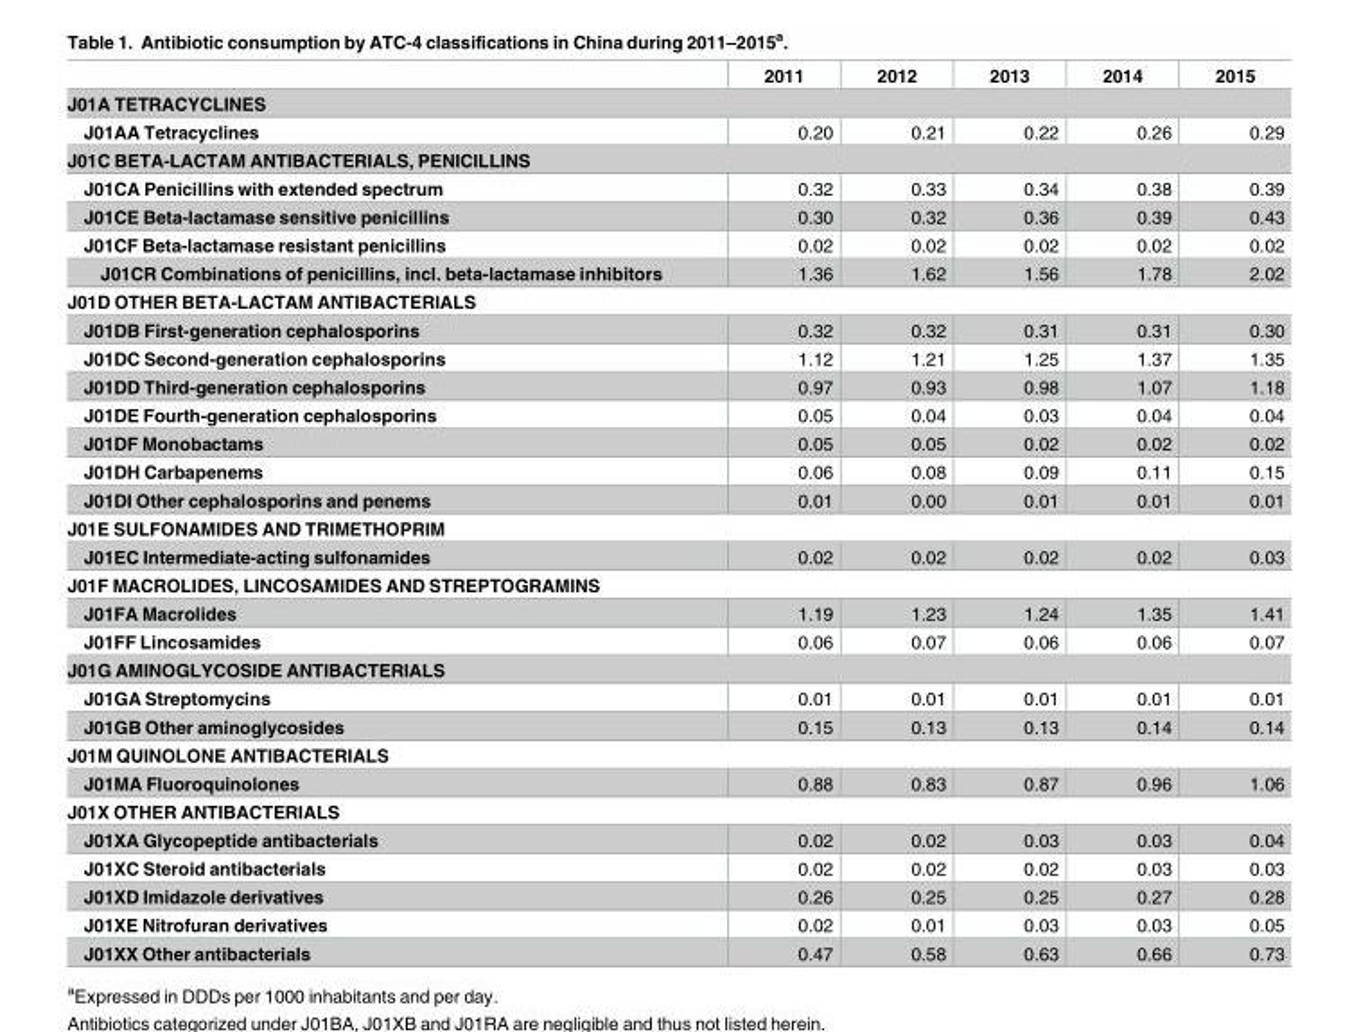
<table><thead><tr><td></td><td>2011</td><td>2012</td><td>2013</td><td>2014</td><td>2015</td></tr></thead><tbody><tr><td colspan="6">J01A TETRACYCLINES</td></tr><tr><td>J01AA Tetracyclines</td><td>0.20</td><td>0.21</td><td>0.22</td><td>0.26</td><td>0.29</td></tr><tr><td colspan="6">J01C BETA-LACTAM ANTIBACTERIALS, PENICILLINS</td></tr><tr><td>J01CA Penicillins with extended spectrum</td><td>0.32</td><td>0.33</td><td>0.34</td><td>0.38</td><td>0.39</td></tr><tr><td>J01CE Beta-lactamase sensitive penicillins</td><td>0.30</td><td>0.32</td><td>0.36</td><td>0.39</td><td>0.43</td></tr><tr><td>J01CF Beta-lactamase resistant penicillins</td><td>0.02</td><td>0.02</td><td>0.02</td><td>0.02</td><td>0.02</td></tr><tr><td>J01CR Combinations of penicillins, incl. beta-lactamase inhibitors</td><td>1.36</td><td>1.62</td><td>1.56</td><td>1.78</td><td>2.02</td></tr><tr><td colspan="6">J01D OTHER BETA-LACTAM ANTIBACTERIALS</td></tr><tr><td>J01DB First-generation cephalosporins</td><td>0.32</td><td>0.32</td><td>0.31</td><td>0.31</td><td>0.30</td></tr><tr><td>J01DC Second-generation cephalosporins</td><td>1.12</td><td>1.21</td><td>1.25</td><td>1.37</td><td>1.35</td></tr><tr><td>J01DD Third-generation cephalosporins</td><td>0.97</td><td>0.93</td><td>0.98</td><td>1.07</td><td>1.18</td></tr><tr><td>J01DE Fourth-generation cephalosporins</td><td>0.05</td><td>0.04</td><td>0.03</td><td>0.04</td><td>0.04</td></tr><tr><td>J01DF Monobactams</td><td>0.05</td><td>0.05</td><td>0.02</td><td>0.02</td><td>0.02</td></tr><tr><td>J01DH Carbapenems</td><td>0.06</td><td>0.08</td><td>0.09</td><td>0.11</td><td>0.15</td></tr><tr><td>J01DI Other cephalosporins and penems</td><td>0.01</td><td>0.00</td><td>0.01</td><td>0.01</td><td>0.01</td></tr><tr><td colspan="6">J01E SULFONAMIDES AND TRIMETHOPRIM</td></tr><tr><td>J01EC Intermediate-acting sulfonamides</td><td>0.02</td><td>0.02</td><td>0.02</td><td>0.02</td><td>0.03</td></tr><tr><td colspan="6">J01F MACROLIDES, LINCOSAMIDES AND STREPTOGRAMINS</td></tr><tr><td>J01FA Macrolides</td><td>1.19</td><td>1.23</td><td>1.24</td><td>1.35</td><td>1.41</td></tr><tr><td>J01FF Lincosamides</td><td>0.06</td><td>0.07</td><td>0.06</td><td>0.06</td><td>0.07</td></tr><tr><td colspan="6">J01G AMINOGLYCOSIDE ANTIBACTERIALS</td></tr><tr><td>J01GA Streptomycins</td><td>0.01</td><td>0.01</td><td>0.01</td><td>0.01</td><td>0.01</td></tr><tr><td>J01GB Other aminoglycosides</td><td>0.15</td><td>0.13</td><td>0.13</td><td>0.14</td><td>0.14</td></tr><tr><td colspan="6">J01M QUINOLONE ANTIBACTERIALS</td></tr><tr><td>J01MA Fluoroquinolones</td><td>0.88</td><td>0.83</td><td>0.87</td><td>0.96</td><td>1.06</td></tr><tr><td colspan="6">J01X OTHER ANTIBACTERIALS</td></tr><tr><td>J01XA Glycopeptide antibacterials</td><td>0.02</td><td>0.02</td><td>0.03</td><td>0.03</td><td>0.04</td></tr><tr><td>J01XC Steroid antibacterials</td><td>0.02</td><td>0.02</td><td>0.02</td><td>0.03</td><td>0.03</td></tr><tr><td>J01XD Imidazole derivatives</td><td>0.26</td><td>0.25</td><td>0.25</td><td>0.27</td><td>0.28</td></tr><tr><td>J01XE Nitrofuran derivatives</td><td>0.02</td><td>0.01</td><td>0.03</td><td>0.03</td><td>0.05</td></tr><tr><td>J01XX Other antibacterials</td><td>0.47</td><td>0.58</td><td>0.63</td><td>0.66</td><td>0.73</td></tr></tbody></table>